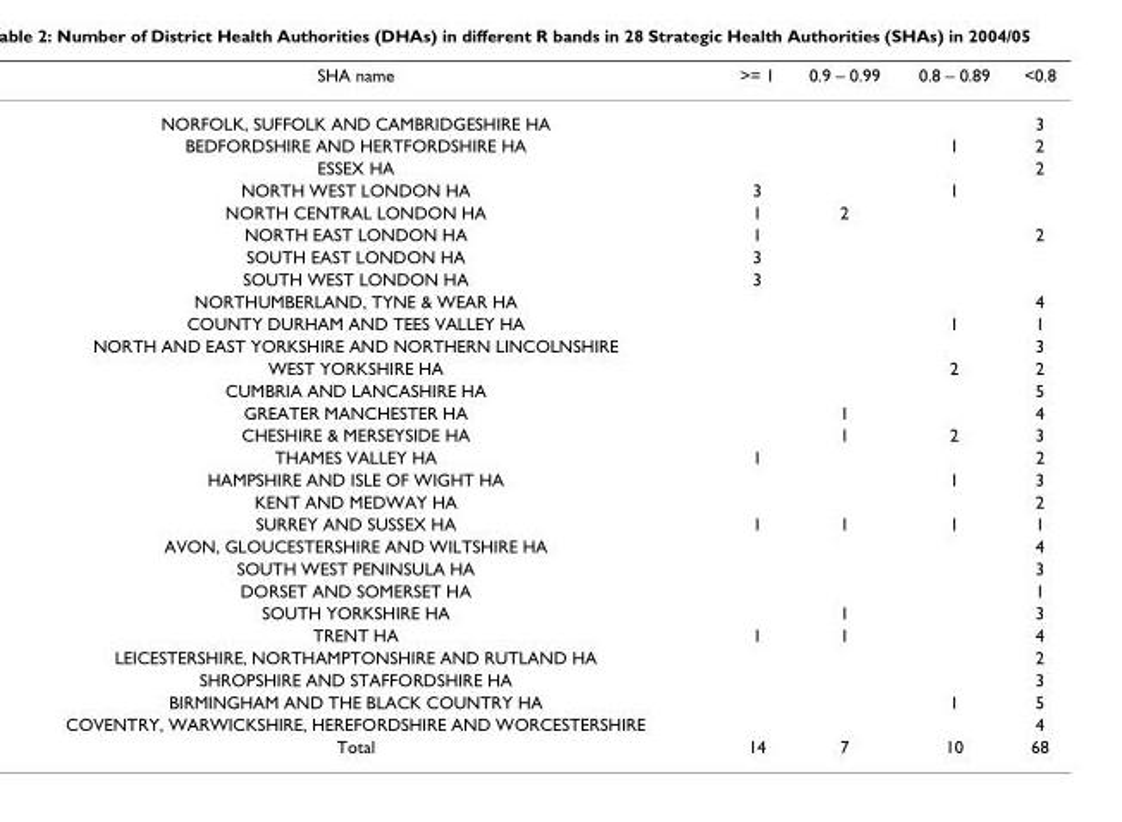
<table><thead><tr><td>SHA name</td><td>&gt;= 1</td><td>0.9 – 0.99</td><td>0.8 – 0.89</td><td>&lt;0.8</td></tr></thead><tbody><tr><td>NORFOLK, SUFFOLK AND CAMBRIDGESHIRE HA</td><td></td><td></td><td></td><td>3</td></tr><tr><td>BEDFORDSHIRE AND HERTFORDSHIRE HA</td><td></td><td></td><td>1</td><td>2</td></tr><tr><td>ESSEX HA</td><td></td><td></td><td></td><td>2</td></tr><tr><td>NORTH WEST LONDON HA</td><td>3</td><td></td><td>1</td><td></td></tr><tr><td>NORTH CENTRAL LONDON HA</td><td>1</td><td>2</td><td></td><td></td></tr><tr><td>NORTH EAST LONDON HA</td><td>1</td><td></td><td></td><td>2</td></tr><tr><td>SOUTH EAST LONDON HA</td><td>3</td><td></td><td></td><td></td></tr><tr><td>SOUTH WEST LONDON HA</td><td>3</td><td></td><td></td><td></td></tr><tr><td>NORTHUMBERLAND, TYNE &amp; WEAR HA</td><td></td><td></td><td></td><td>4</td></tr><tr><td>COUNTY DURHAM AND TEES VALLEY HA</td><td></td><td></td><td>1</td><td>1</td></tr><tr><td>NORTH AND EAST YORKSHIRE AND NORTHERN LINCOLNSHIRE</td><td></td><td></td><td></td><td>3</td></tr><tr><td>WEST YORKSHIRE HA</td><td></td><td></td><td>2</td><td>2</td></tr><tr><td>CUMBRIA AND LANCASHIRE HA</td><td></td><td></td><td></td><td>5</td></tr><tr><td>GREATER MANCHESTER HA</td><td></td><td>1</td><td></td><td>4</td></tr><tr><td>CHESHIRE &amp; MERSEYSIDE HA</td><td></td><td>1</td><td>2</td><td>3</td></tr><tr><td>THAMES VALLEY HA</td><td>1</td><td></td><td></td><td>2</td></tr><tr><td>HAMPSHIRE AND ISLE OF WIGHT HA</td><td></td><td></td><td>1</td><td>3</td></tr><tr><td>KENT AND MEDWAY HA</td><td></td><td></td><td></td><td>2</td></tr><tr><td>SURREY AND SUSSEX HA</td><td>1</td><td>1</td><td>1</td><td>1</td></tr><tr><td>AVON, GLOUCESTERSHIRE AND WILTSHIRE HA</td><td></td><td></td><td></td><td>4</td></tr><tr><td>SOUTH WEST PENINSULA HA</td><td></td><td></td><td></td><td>3</td></tr><tr><td>DORSET AND SOMERSET HA</td><td></td><td></td><td></td><td>1</td></tr><tr><td>SOUTH YORKSHIRE HA</td><td></td><td>1</td><td></td><td>3</td></tr><tr><td>TRENT HA</td><td>1</td><td>1</td><td></td><td>4</td></tr><tr><td>LEICESTERSHIRE, NORTHAMPTONSHIRE AND RUTLAND HA</td><td></td><td></td><td></td><td>2</td></tr><tr><td>SHROPSHIRE AND STAFFORDSHIRE HA</td><td></td><td></td><td></td><td>3</td></tr><tr><td>BIRMINGHAM AND THE BLACK COUNTRY HA</td><td></td><td></td><td>1</td><td>5</td></tr><tr><td>COVENTRY, WARWICKSHIRE, HEREFORDSHIRE AND WORCESTERSHIRE</td><td></td><td></td><td></td><td>4</td></tr><tr><td>Total</td><td>14</td><td>7</td><td>10</td><td>68</td></tr></tbody></table>